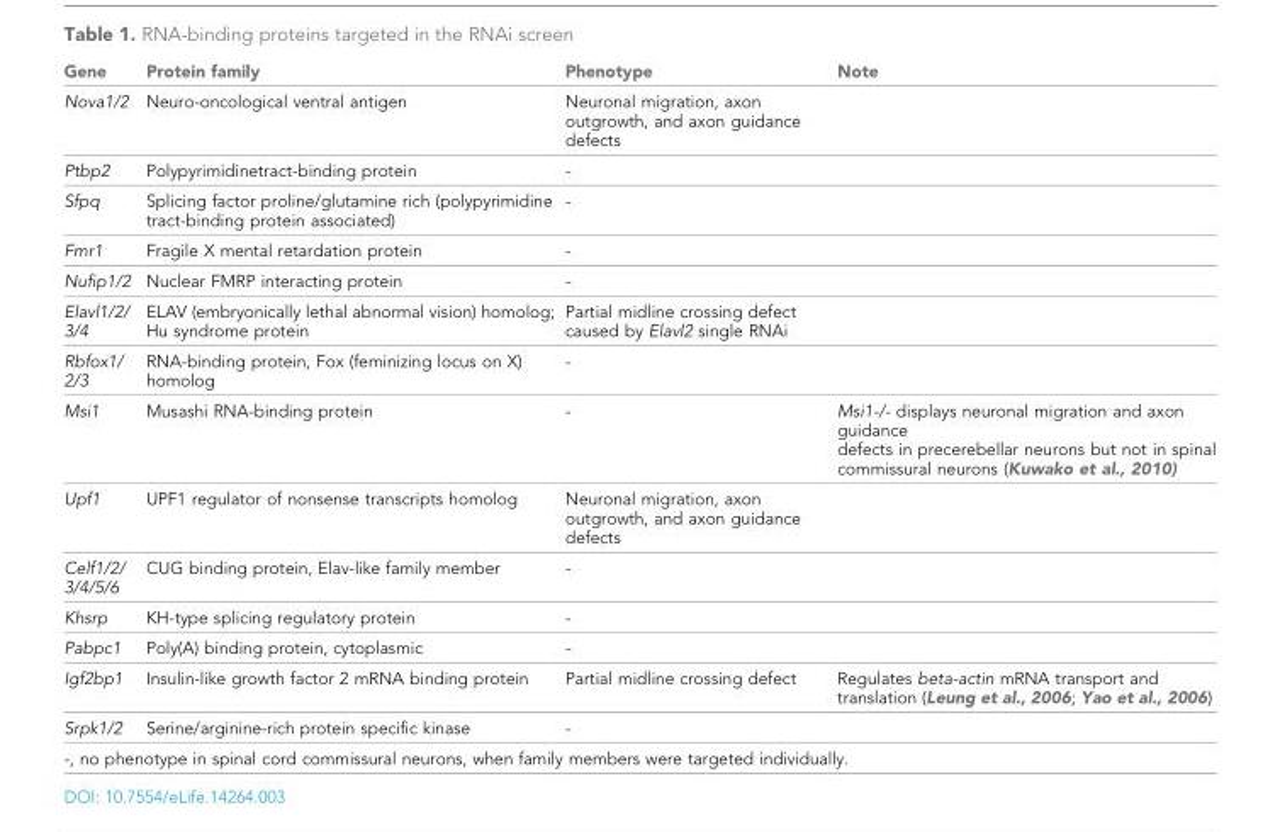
<table><thead><tr><td>Gene</td><td>Protein family</td><td>Phenotype</td><td>Note</td></tr></thead><tbody><tr><td>Nova1/2</td><td>Neuro-oncological ventral antigen</td><td>Neuronal migration, axon outgrowth, and axon guidance defects</td><td></td></tr><tr><td>Ptbp2</td><td>Polypyrimidinetract-binding protein</td><td>-</td><td></td></tr><tr><td>Sfpq</td><td>Splicing factor proline/glutamine rich (polypyrimidine tract-binding protein associated)</td><td>-</td><td></td></tr><tr><td>Fmr1</td><td>Fragile X mental retardation protein</td><td>-</td><td></td></tr><tr><td>Nufip1/2</td><td>Nuclear FMRP interacting protein</td><td>-</td><td></td></tr><tr><td>Elavl1/2/ 3/4</td><td>ELAV (embryonically lethal abnormal vision) homolog; Hu syndrome protein</td><td>Partial midline crossing defect caused by Elavl2 single RNAi</td><td></td></tr><tr><td>Rbfox1/ 2/3</td><td>RNA-binding protein, Fox (feminizing locus on X) homolog</td><td>-</td><td></td></tr><tr><td>Msi1</td><td>Musashi RNA-binding protein</td><td>-</td><td>Msi1-/- displays neuronal migration and axon guidance defects in precerebellar neurons but not in spinal commissural neurons (Kuwako et al., 2010)</td></tr><tr><td>Upf1</td><td>UPF1 regulator of nonsense transcripts homolog</td><td>Neuronal migration, axon outgrowth, and axon guidance defects</td><td></td></tr><tr><td>Celf1/2/ 3/4/5/6</td><td>CUG binding protein, Elav-like family member</td><td>-</td><td></td></tr><tr><td>Khsrp</td><td>KH-type splicing regulatory protein</td><td>-</td><td></td></tr><tr><td>Pabpc1</td><td>Poly(A) binding protein, cytoplasmic</td><td>-</td><td></td></tr><tr><td>Igf2bp1</td><td>Insulin-like growth factor 2 mRNA binding protein</td><td>Partial midline crossing defect</td><td>Regulates beta-actin mRNA transport and translation (Leung et al., 2006; Yao et al., 2006)</td></tr><tr><td>Srpk1/2</td><td>Serine/arginine-rich protein specific kinase</td><td>-</td><td></td></tr><tr><td colspan="4">-, no phenotype in spinal cord commissural neurons, when family members were targeted individually.</td></tr></tbody></table>